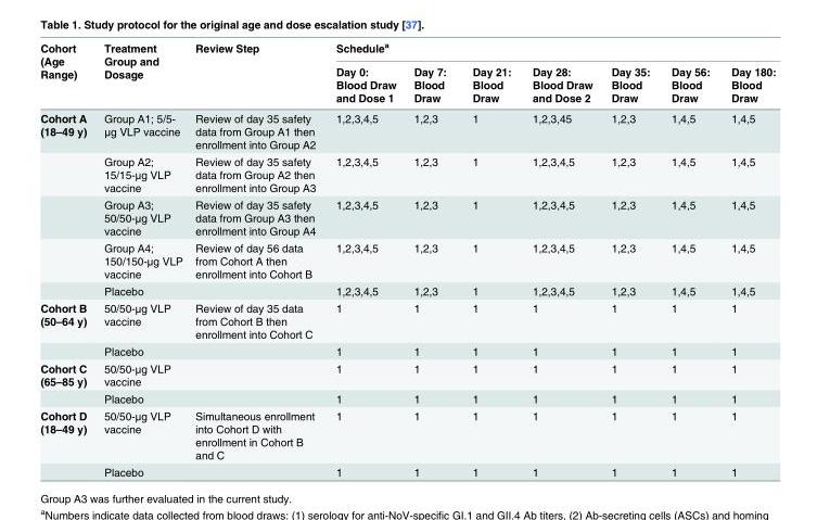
<table><thead><tr><td rowspan="2">Cohort (Age Range)</td><td rowspan="2">Treatment Group and Dosage</td><td rowspan="2">Review Step</td><td colspan="7">Schedule<sup>a</sup></td></tr><tr><td>Day 0: Blood Draw and Dose 1</td><td>Day 7: Blood Draw</td><td>Day 21: Blood Draw</td><td>Day 28: Blood Draw and Dose 2</td><td>Day 35: Blood Draw</td><td>Day 56: Blood Draw</td><td>Day 180: Blood Draw</td></tr></thead><tbody><tr><td rowspan="5">Cohort A (18–49 y)</td><td>Group A1; 5/5- μg VLP vaccine</td><td>Review of day 35 safety data from Group A1 then enrollment into Group A2</td><td>1,2,3,4,5</td><td>1,2,3</td><td>1</td><td>1,2,3,45</td><td>1,2,3</td><td>1,4,5</td><td>1,4,5</td></tr><tr><td>Group A2; 15/15-μg VLP vaccine</td><td>Review of day 35 safety data from Group A2 then enrollment into Group A3</td><td>1,2,3,4,5</td><td>1,2,3</td><td>1</td><td>1,2,3,4,5</td><td>1,2,3</td><td>1,4,5</td><td>1,4,5</td></tr><tr><td>Group A3; 50/50-μg VLP vaccine</td><td>Review of day 35 safety data from Group A3 then enrollment into Group A4</td><td>1,2,3,4,5</td><td>1,2,3</td><td>1</td><td>1,2,3,4,5</td><td>1,2,3</td><td>1,4,5</td><td>1,4,5</td></tr><tr><td>Group A4; 150/150-μg VLP vaccine</td><td>Review of day 56 data from Cohort A then enrollment into Cohort B</td><td>1,2,3,4,5</td><td>1,2,3</td><td>1</td><td>1,2,3,4,5</td><td>1,2,3</td><td>1,4,5</td><td>1,4,5</td></tr><tr><td>Placebo</td><td></td><td>1,2,3,4,5</td><td>1,2,3</td><td>1</td><td>1,2,3,4,5</td><td>1,2,3</td><td>1,4,5</td><td>1,4,5</td></tr><tr><td rowspan="2">Cohort B (50–64 y)</td><td>50/50-μg VLP vaccine</td><td>Review of day 35 data from Cohort B then enrollment into Cohort C</td><td>1</td><td>1</td><td>1</td><td>1</td><td>1</td><td>1</td><td>1</td></tr><tr><td>Placebo</td><td></td><td>1</td><td>1</td><td>1</td><td>1</td><td>1</td><td>1</td><td>1</td></tr><tr><td rowspan="2">Cohort C (65–85 y)</td><td>50/50-μg VLP vaccine</td><td></td><td>1</td><td>1</td><td>1</td><td>1</td><td>1</td><td>1</td><td>1</td></tr><tr><td>Placebo</td><td></td><td>1</td><td>1</td><td>1</td><td>1</td><td>1</td><td>1</td><td>1</td></tr><tr><td rowspan="2">Cohort D (18–49 y)</td><td>50/50-μg VLP vaccine</td><td>Simultaneous enrollment into Cohort D with enrollment in Cohort B and C</td><td>1</td><td>1</td><td>1</td><td>1</td><td>1</td><td>1</td><td>1</td></tr><tr><td>Placebo</td><td></td><td>1</td><td>1</td><td>1</td><td>1</td><td>1</td><td>1</td><td>1</td></tr></tbody></table>